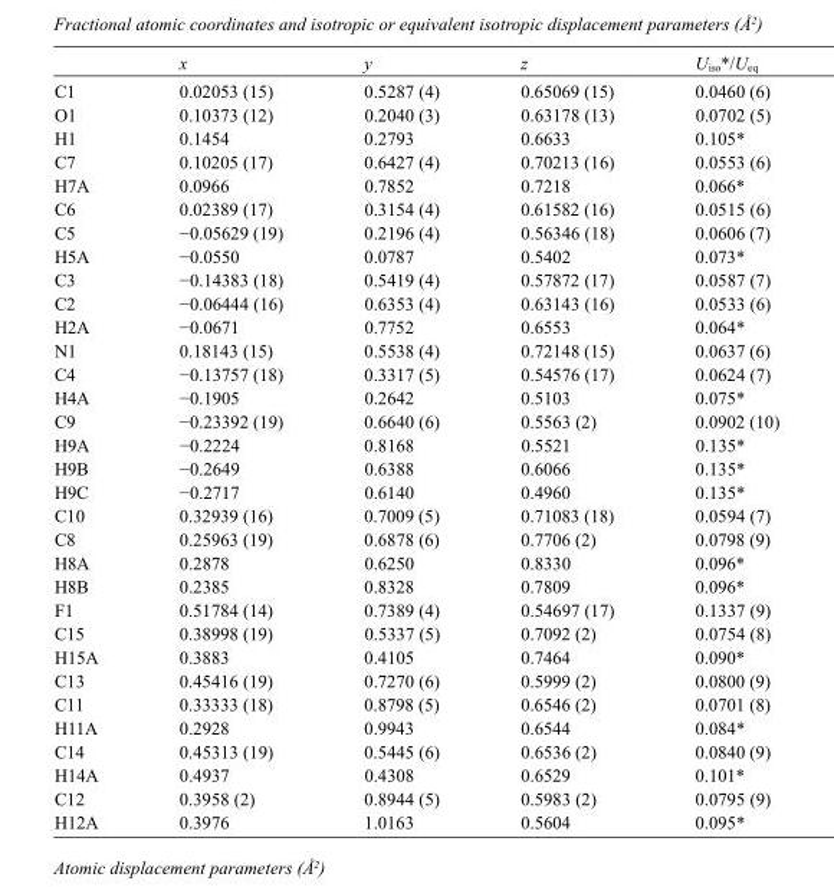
<table><thead><tr><td></td><td>x</td><td>y</td><td>z</td><td>U<sub>iso</sub>*/U<sub>eq</sub></td></tr></thead><tbody><tr><td>C1</td><td>0.02053 (15)</td><td>0.5287 (4)</td><td>0.65069 (15)</td><td>0.0460 (6)</td></tr><tr><td>O1</td><td>0.10373 (12)</td><td>0.2040 (3)</td><td>0.63178 (13)</td><td>0.0702 (5)</td></tr><tr><td>H1</td><td>0.1454</td><td>0.2793</td><td>0.6633</td><td>0.105*</td></tr><tr><td>C7</td><td>0.10205 (17)</td><td>0.6427 (4)</td><td>0.70213 (16)</td><td>0.0553 (6)</td></tr><tr><td>H7A</td><td>0.0966</td><td>0.7852</td><td>0.7218</td><td>0.066*</td></tr><tr><td>C6</td><td>0.02389 (17)</td><td>0.3154 (4)</td><td>0.61582 (16)</td><td>0.0515 (6)</td></tr><tr><td>C5</td><td>−0.05629 (19)</td><td>0.2196 (4)</td><td>0.56346 (18)</td><td>0.0606 (7)</td></tr><tr><td>H5A</td><td>−0.0550</td><td>0.0787</td><td>0.5402</td><td>0.073*</td></tr><tr><td>C3</td><td>−0.14383 (18)</td><td>0.5419 (4)</td><td>0.57872 (17)</td><td>0.0587 (7)</td></tr><tr><td>C2</td><td>−0.06444 (16)</td><td>0.6353 (4)</td><td>0.63143 (16)</td><td>0.0533 (6)</td></tr><tr><td>H2A</td><td>−0.0671</td><td>0.7752</td><td>0.6553</td><td>0.064*</td></tr><tr><td>N1</td><td>0.18143 (15)</td><td>0.5538 (4)</td><td>0.72148 (15)</td><td>0.0637 (6)</td></tr><tr><td>C4</td><td>−0.13757 (18)</td><td>0.3317 (5)</td><td>0.54576 (17)</td><td>0.0624 (7)</td></tr><tr><td>H4A</td><td>−0.1905</td><td>0.2642</td><td>0.5103</td><td>0.075*</td></tr><tr><td>C9</td><td>−0.23392 (19)</td><td>0.6640 (6)</td><td>0.5563 (2)</td><td>0.0902 (10)</td></tr><tr><td>H9A</td><td>−0.2224</td><td>0.8168</td><td>0.5521</td><td>0.135*</td></tr><tr><td>H9B</td><td>−0.2649</td><td>0.6388</td><td>0.6066</td><td>0.135*</td></tr><tr><td>H9C</td><td>−0.2717</td><td>0.6140</td><td>0.4960</td><td>0.135*</td></tr><tr><td>C10</td><td>0.32939 (16)</td><td>0.7009 (5)</td><td>0.71083 (18)</td><td>0.0594 (7)</td></tr><tr><td>C8</td><td>0.25963 (19)</td><td>0.6878 (6)</td><td>0.7706 (2)</td><td>0.0798 (9)</td></tr><tr><td>H8A</td><td>0.2878</td><td>0.6250</td><td>0.8330</td><td>0.096*</td></tr><tr><td>H8B</td><td>0.2385</td><td>0.8328</td><td>0.7809</td><td>0.096*</td></tr><tr><td>F1</td><td>0.51784 (14)</td><td>0.7389 (4)</td><td>0.54697 (17)</td><td>0.1337 (9)</td></tr><tr><td>C15</td><td>0.38998 (19)</td><td>0.5337 (5)</td><td>0.7092 (2)</td><td>0.0754 (8)</td></tr><tr><td>H15A</td><td>0.3883</td><td>0.4105</td><td>0.7464</td><td>0.090*</td></tr><tr><td>C13</td><td>0.45416 (19)</td><td>0.7270 (6)</td><td>0.5999 (2)</td><td>0.0800 (9)</td></tr><tr><td>C11</td><td>0.33333 (18)</td><td>0.8798 (5)</td><td>0.6546 (2)</td><td>0.0701 (8)</td></tr><tr><td>H11A</td><td>0.2928</td><td>0.9943</td><td>0.6544</td><td>0.084*</td></tr><tr><td>C14</td><td>0.45313 (19)</td><td>0.5445 (6)</td><td>0.6536 (2)</td><td>0.0840 (9)</td></tr><tr><td>H14A</td><td>0.4937</td><td>0.4308</td><td>0.6529</td><td>0.101*</td></tr><tr><td>C12</td><td>0.3958 (2)</td><td>0.8944 (5)</td><td>0.5983 (2)</td><td>0.0795 (9)</td></tr><tr><td>H12A</td><td>0.3976</td><td>1.0163</td><td>0.5604</td><td>0.095*</td></tr></tbody></table>